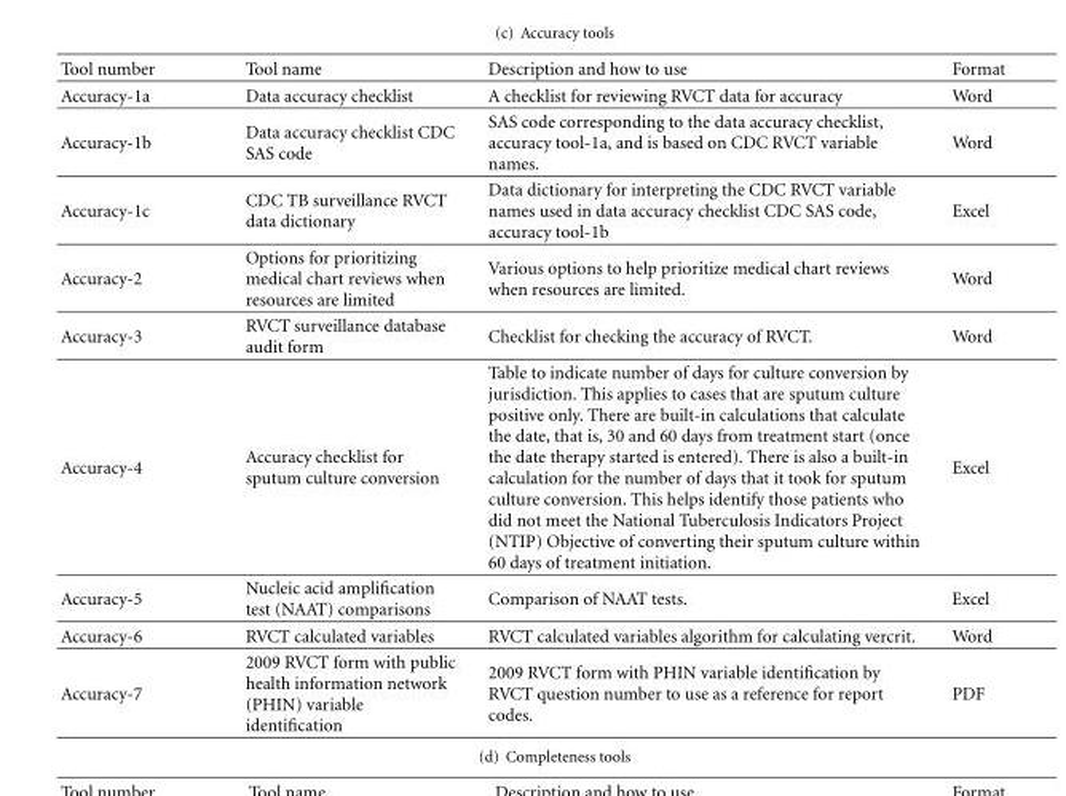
<table><thead><tr><td>Tool number</td><td>Tool name</td><td>Description and how to use</td><td>Format</td></tr></thead><tbody><tr><td>Accuracy-1a</td><td>Data accuracy checklist</td><td>A checklist for reviewing RVCT data for accuracy</td><td>Word</td></tr><tr><td>Accuracy-1b</td><td>Data accuracy checklist CDC SAS code</td><td>SAS code corresponding to the data accuracy checklist, accuracy tool-1a, and is based on CDC RVCT variable names.</td><td>Word</td></tr><tr><td>Accuracy-1c</td><td>CDC TB surveillance RVCT data dictionary</td><td>Data dictionary for interpreting the CDC RVCT variable names used in data accuracy checklist CDC SAS code, accuracy tool-1b</td><td>Excel</td></tr><tr><td>Accuracy-2</td><td>Options for prioritizing medical chart reviews when resources are limited</td><td>Various options to help prioritize medical chart reviews when resources are limited.</td><td>Word</td></tr><tr><td>Accuracy-3</td><td>RVCT surveillance database audit form</td><td>Checklist for checking the accuracy of RVCT.</td><td>Word</td></tr><tr><td>Accuracy-4</td><td>Accuracy checklist for sputum culture conversion</td><td>Table to indicate number of days for culture conversion by jurisdiction. This applies to cases that are sputum culture positive only. There are built-in calculations that calculate the date, that is, 30 and 60 days from treatment start (once the date therapy started is entered). There is also a built-in calculation for the number of days that it took for sputum culture conversion. This helps identify those patients who did not meet the National Tuberculosis Indicators Project (NTIP) Objective of converting their sputum culture within 60 days of treatment initiation.</td><td>Excel</td></tr><tr><td>Accuracy-5</td><td>Nucleic acid amplification test (NAAT) comparisons</td><td>Comparison of NAAT tests.</td><td>Excel</td></tr><tr><td>Accuracy-6</td><td>RVCT calculated variables</td><td>RVCT calculated variables algorithm for calculating vercrit.</td><td>Word</td></tr><tr><td>Accuracy-7</td><td>2009 RVCT form with public health information network (PHIN) variable identification</td><td>2009 RVCT form with PHIN variable identification by RVCT question number to use as a reference for report codes.</td><td>PDF</td></tr></tbody></table>